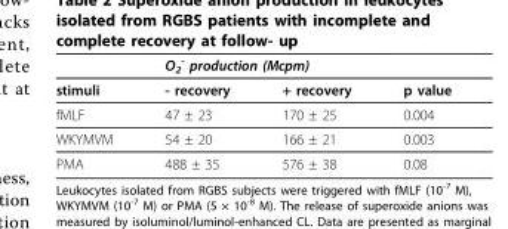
<table><thead><tr><td rowspan="2">stimuli</td><td colspan="3">O<sub>2</sub> <sup>-</sup> production (Mcpm)</td></tr><tr><td>- recovery</td><td>+ recovery</td><td>p value</td></tr></thead><tbody><tr><td>fMLF</td><td>47 ± 23</td><td>170 ± 25</td><td>0.004</td></tr><tr><td>WKYMVM</td><td>54 ± 20</td><td>166 ± 21</td><td>0.003</td></tr><tr><td>PMA</td><td>488 ± 35</td><td>576 ± 38</td><td>0.08</td></tr></tbody></table>